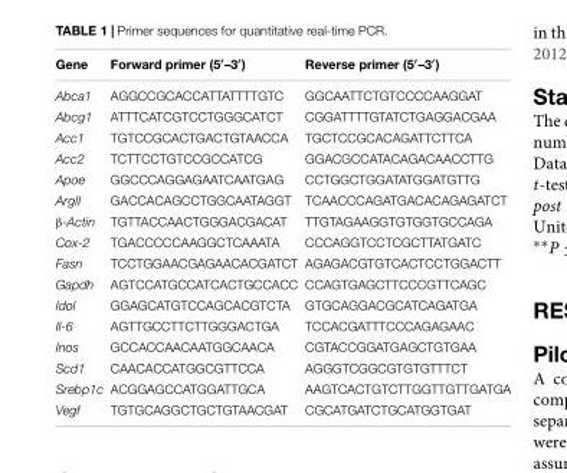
<table><thead><tr><td>Gene</td><td>Forward primer (5′–3′)</td><td>Reverse primer (5′–3′)</td></tr></thead><tbody><tr><td>Abca1</td><td>AGGCCGCACCATTATTTTGTC</td><td>GGCAATTCTGTCCCCAAGGAT</td></tr><tr><td>Abcg1</td><td>ATTTCATCGTCCTGGGCATCT</td><td>CGGATTTTGTATCTGAGGACGAA</td></tr><tr><td>Acc1</td><td>TGTCCGCACTGACTGTAACCA</td><td>TGCTCCGCACAGATTCTTCA</td></tr><tr><td>Acc2</td><td>TCTTCCTGTCCGCCATCG</td><td>GGACGCCATACAGACAACCTTG</td></tr><tr><td>Apoe</td><td>GGCCCAGGAGAATCAATGAG</td><td>CCTGGCTGGATATGGATGTTG</td></tr><tr><td>ArgII</td><td>GACCACAGCCTGGCAATAGGT</td><td>TCAACCCAGATGACACAGAGATCT</td></tr><tr><td>β-Actin</td><td>TGTTACCAACTGGGACGACAT</td><td>TTGTAGAAGGTGTGGTGCCAGA</td></tr><tr><td>Cox-2</td><td>TGACCCCCAAGGCTCAAATA</td><td>CCCAGGTCCTCGCTTATGATC</td></tr><tr><td>Fasn</td><td>TCCTGGAACGAGAACACGATCT</td><td>AGAGACGTGTCACTCCTGGACTT</td></tr><tr><td>Gapdh</td><td>AGTCCATGCCATCACTGCCACC</td><td>CCAGTGAGCTTCCCGTTCAGC</td></tr><tr><td>Idol</td><td>GGAGCATGTCCAGCACGTCTA</td><td>GTGCAGGACGCATCAGATGA</td></tr><tr><td>Il-6</td><td>AGTTGCCTTCTTGGGACTGA</td><td>TCCACGATTTCCCAGAGAAC</td></tr><tr><td>Inos</td><td>GCCACCAACAATGGCAACA</td><td>CGTACCGGATGAGCTGTGAA</td></tr><tr><td>Scd1</td><td>CAACACCATGGCGTTCCA</td><td>AGGGTCGGCGTGTGTTTCT</td></tr><tr><td>Srebp1c</td><td>ACGGAGCCATGGATTGCA</td><td>AAGTCACTGTCTTGGTTGTTGATGA</td></tr><tr><td>Vegf</td><td>TGTGCAGGCTGCTGTAACGAT</td><td>CGCATGATCTGCATGGTGAT</td></tr></tbody></table>